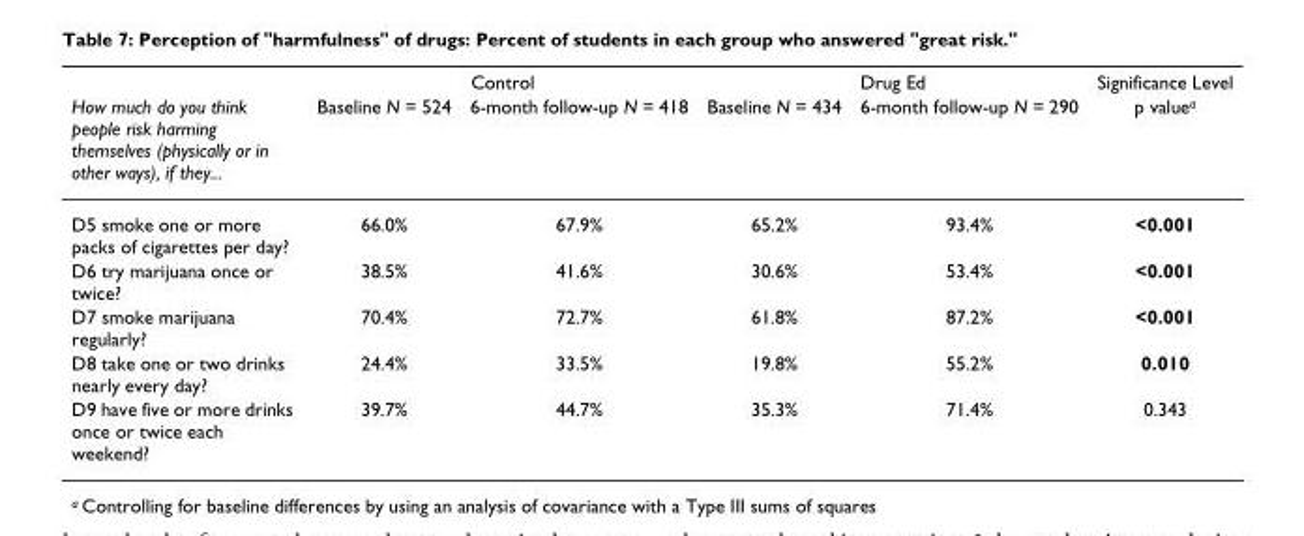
<table><thead><tr><td rowspan="2">How much do you think people risk harming themselves (physically or in other ways), if they...</td><td colspan="2">Control</td><td colspan="2">Drug Ed</td><td rowspan="2">Significance Level p value<sup>a</sup></td></tr><tr><td>Baseline N = 524</td><td>6-month follow-up N = 418</td><td>Baseline N = 434</td><td>6-month follow-up N = 290</td></tr></thead><tbody><tr><td>D5 smoke one or more packs of cigarettes per day?</td><td>66.0%</td><td>67.9%</td><td>65.2%</td><td>93.4%</td><td>&lt;0.001</td></tr><tr><td>D6 try marijuana once or twice?</td><td>38.5%</td><td>41.6%</td><td>30.6%</td><td>53.4%</td><td>&lt;0.001</td></tr><tr><td>D7 smoke marijuana regularly?</td><td>70.4%</td><td>72.7%</td><td>61.8%</td><td>87.2%</td><td>&lt;0.001</td></tr><tr><td>D8 take one or two drinks nearly every day?</td><td>24.4%</td><td>33.5%</td><td>19.8%</td><td>55.2%</td><td>0.010</td></tr><tr><td>D9 have five or more drinks once or twice each weekend?</td><td>39.7%</td><td>44.7%</td><td>35.3%</td><td>71.4%</td><td>0.343</td></tr></tbody></table>